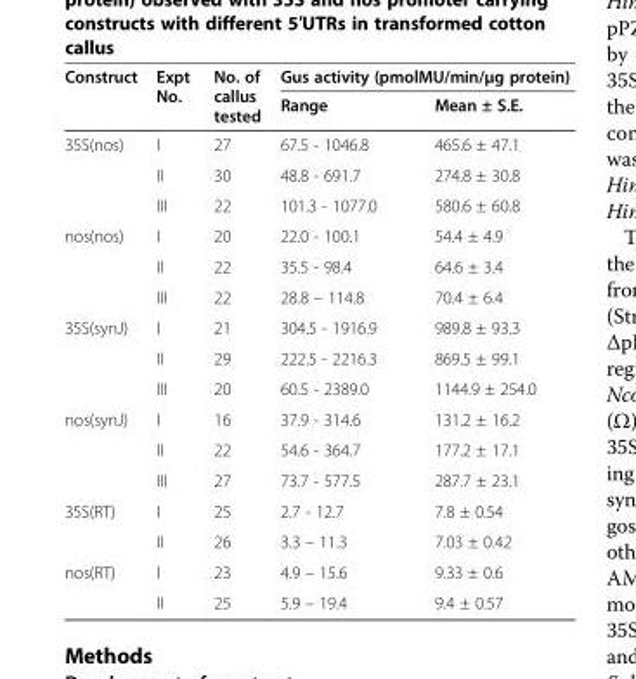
<table><thead><tr><td rowspan="2">Construct</td><td rowspan="2">Expt No.</td><td rowspan="2">No. of callus tested</td><td colspan="2">Gus activity (pmolMU/min/μg protein)</td></tr><tr><td>Range</td><td>Mean ± S.E.</td></tr></thead><tbody><tr><td rowspan="3">35S(nos)</td><td>I</td><td>27</td><td>67.5 - 1046.8</td><td>465.6 ± 47.1</td></tr><tr><td>II</td><td>30</td><td>48.8 - 691.7</td><td>274.8 ± 30.8</td></tr><tr><td>III</td><td>22</td><td>101.3 - 1077.0</td><td>580.6 ± 60.8</td></tr><tr><td rowspan="3">nos(nos)</td><td>I</td><td>20</td><td>22.0 - 100.1</td><td>54.4 ± 4.9</td></tr><tr><td>II</td><td>22</td><td>35.5 - 98.4</td><td>64.6 ± 3.4</td></tr><tr><td>III</td><td>22</td><td>28.8 – 114.8</td><td>70.4 ± 6.4</td></tr><tr><td rowspan="3">35S(synJ)</td><td>I</td><td>21</td><td>304.5 - 1916.9</td><td>989.8 ± 93.3</td></tr><tr><td>II</td><td>29</td><td>222.5 - 2216.3</td><td>869.5 ± 99.1</td></tr><tr><td>III</td><td>20</td><td>60.5 - 2389.0</td><td>1144.9 ± 254.0</td></tr><tr><td rowspan="3">nos(synJ)</td><td>I</td><td>16</td><td>37.9 - 314.6</td><td>131.2 ± 16.2</td></tr><tr><td>II</td><td>22</td><td>54.6 - 364.7</td><td>177.2 ± 17.1</td></tr><tr><td>III</td><td>27</td><td>73.7 - 577.5</td><td>287.7 ± 23.1</td></tr><tr><td rowspan="2">35S(RT)</td><td>I</td><td>25</td><td>2.7 - 12.7</td><td>7.8 ± 0.54</td></tr><tr><td>II</td><td>26</td><td>3.3 – 11.3</td><td>7.03 ± 0.42</td></tr><tr><td rowspan="2">nos(RT)</td><td>I</td><td>23</td><td>4.9 – 15.6</td><td>9.33 ± 0.6</td></tr><tr><td>II</td><td>25</td><td>5.9 – 19.4</td><td>9.4 ± 0.57</td></tr></tbody></table>